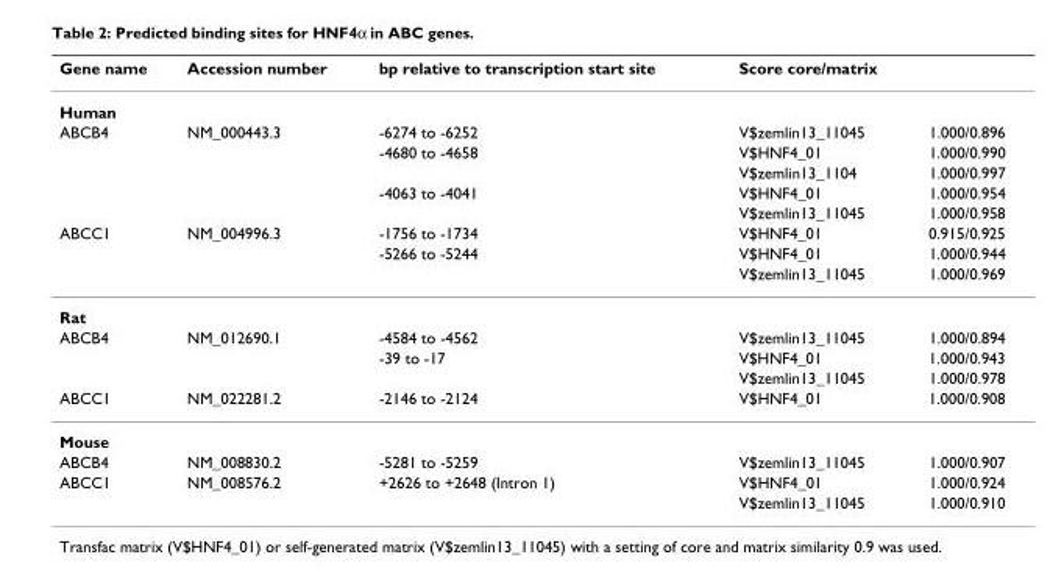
<table><thead><tr><td>Gene name</td><td>Accession number</td><td>bp relative to transcription start site</td><td>Score core/matrix</td><td></td></tr></thead><tbody><tr><td colspan="5">Human</td></tr><tr><td rowspan="5">ABCB4</td><td>NM_000443.3</td><td>-6274 to -6252</td><td>V$zemlin13_11045</td><td>1.000/0.896</td></tr><tr><td></td><td>-4680 to -4658</td><td>V$HNF4_01</td><td>1.000/0.990</td></tr><tr><td></td><td></td><td>V$zemlin13_1104</td><td>1.000/0.997</td></tr><tr><td></td><td>-4063 to -4041</td><td>V$HNF4_01</td><td>1.000/0.954</td></tr><tr><td></td><td></td><td>V$zemlin13_11045</td><td>1.000/0.958</td></tr><tr><td rowspan="3">ABCC1</td><td>NM_004996.3</td><td>-1756 to -1734</td><td>V$HNF4_01</td><td>0.915/0.925</td></tr><tr><td></td><td>-5266 to -5244</td><td>V$HNF4_01</td><td>1.000/0.944</td></tr><tr><td></td><td></td><td>V$zemlin13_11045</td><td>1.000/0.969</td></tr><tr><td colspan="5">Rat</td></tr><tr><td rowspan="3">ABCB4</td><td>NM_012690.1</td><td>-4584 to -4562</td><td>V$zemlin13_11045</td><td>1.000/0.894</td></tr><tr><td></td><td>-39 to -17</td><td>V$HNF4_01</td><td>1.000/0.943</td></tr><tr><td></td><td></td><td>V$zemlin13_11045</td><td>1.000/0.978</td></tr><tr><td>ABCC1</td><td>NM_022281.2</td><td>-2146 to -2124</td><td>V$HNF4_01</td><td>1.000/0.908</td></tr><tr><td colspan="5">Mouse</td></tr><tr><td>ABCB4</td><td>NM_008830.2</td><td>-5281 to -5259</td><td>V$zemlin13_11045</td><td>1.000/0.907</td></tr><tr><td rowspan="2">ABCC1</td><td>NM_008576.2</td><td>+2626 to +2648 (Intron 1)</td><td>V$HNF4_01</td><td>1.000/0.924</td></tr><tr><td></td><td></td><td>V$zemlin13_11045</td><td>1.000/0.910</td></tr></tbody></table>